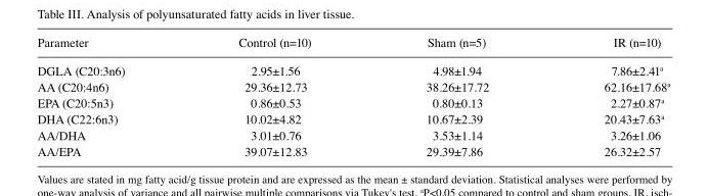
<table><thead><tr><td>Parameter</td><td>Control (n=10)</td><td>Sham (n=5)</td><td>IR (n=10)</td></tr></thead><tbody><tr><td>DGLA (C20:3n6)</td><td>2.95±1.56</td><td>4.98±1.94</td><td>7.86±2.41<sup>a</sup></td></tr><tr><td>AA (C20:4n6)</td><td>29.36±12.73</td><td>38.26±17.72</td><td>62.16±17.68<sup>a</sup></td></tr><tr><td>EPA (C20:5n3)</td><td>0.86±0.53</td><td>0.80±0.13</td><td>2.27±0.87<sup>a</sup></td></tr><tr><td>DHA (C22:6n3)</td><td>10.02±4.82</td><td>10.67±2.39</td><td>20.43±7.63<sup>a</sup></td></tr><tr><td>AA/DHA</td><td>3.01±0.76</td><td>3.53±1.14</td><td>3.26±1.06</td></tr><tr><td>AA/EPA</td><td>39.07±12.83</td><td>29.39±7.86</td><td>26.32±2.57</td></tr></tbody></table>